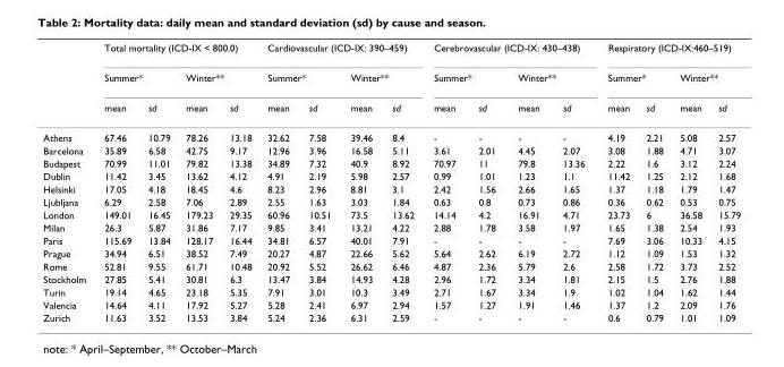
<table><thead><tr><td rowspan="3"></td><td colspan="4">Total mortality (ICD-IX &lt; 800.0)</td><td colspan="4">Cardiovascular (ICD-IX: 390–459)</td><td colspan="4">Cerebrovascular (ICD-IX: 430–438)</td><td colspan="4">Respiratory (ICD-IX:460–519)</td></tr><tr><td colspan="2">Summer*</td><td colspan="2">Winter**</td><td colspan="2">Summer*</td><td colspan="2">Winter**</td><td colspan="2">Summer*</td><td colspan="2">Winter**</td><td colspan="2">Summer*</td><td colspan="2">Winter**</td></tr><tr><td>mean</td><td>sd</td><td>mean</td><td>sd</td><td>mean</td><td>sd</td><td>mean</td><td>sd</td><td>mean</td><td>sd</td><td>mean</td><td>sd</td><td>mean</td><td>sd</td><td>mean</td><td>sd</td></tr></thead><tbody><tr><td>Athens</td><td>67.46</td><td>10.79</td><td>78.26</td><td>13.18</td><td>32.62</td><td>7.58</td><td>39.46</td><td>8.4</td><td>-</td><td>-</td><td>-</td><td>-</td><td>4.19</td><td>2.21</td><td>5.08</td><td>2.57</td></tr><tr><td>Barcelona</td><td>35.89</td><td>6.58</td><td>42.75</td><td>9.17</td><td>12.96</td><td>3.96</td><td>16.58</td><td>5.11</td><td>3.61</td><td>2.01</td><td>4.45</td><td>2.07</td><td>3.08</td><td>1.88</td><td>4.71</td><td>3.07</td></tr><tr><td>Budapest</td><td>70.99</td><td>11.01</td><td>79.82</td><td>13.38</td><td>34.89</td><td>7.32</td><td>40.9</td><td>8.92</td><td>70.97</td><td>11</td><td>79.8</td><td>13.36</td><td>2.22</td><td>1.6</td><td>3.12</td><td>2.24</td></tr><tr><td>Dublin</td><td>11.42</td><td>3.45</td><td>13.62</td><td>4.12</td><td>4.91</td><td>2.19</td><td>5.98</td><td>2.57</td><td>0.99</td><td>1.01</td><td>1.23</td><td>1.1</td><td>11.42</td><td>1.25</td><td>2.12</td><td>1.68</td></tr><tr><td>Helsinki</td><td>17.05</td><td>4.18</td><td>18.45</td><td>4.6</td><td>8.23</td><td>2.96</td><td>8.81</td><td>3.1</td><td>2.42</td><td>1.56</td><td>2.66</td><td>1.65</td><td>1.37</td><td>1.18</td><td>1.79</td><td>1.47</td></tr><tr><td>Ljubljana</td><td>6.29</td><td>2.58</td><td>7.06</td><td>2.89</td><td>2.55</td><td>1.63</td><td>3.03</td><td>1.84</td><td>0.63</td><td>0.8</td><td>0.73</td><td>0.86</td><td>0.36</td><td>0.62</td><td>0.53</td><td>0.75</td></tr><tr><td>London</td><td>149.01</td><td>16.45</td><td>179.23</td><td>29.35</td><td>60.96</td><td>10.51</td><td>73.5</td><td>13.62</td><td>14.14</td><td>4.2</td><td>16.91</td><td>4.71</td><td>23.73</td><td>6</td><td>36.58</td><td>15.79</td></tr><tr><td>Milan</td><td>26.3</td><td>5.87</td><td>31.86</td><td>7.17</td><td>9.85</td><td>3.41</td><td>13.21</td><td>4.22</td><td>2.88</td><td>1.78</td><td>3.58</td><td>1.97</td><td>1.65</td><td>1.38</td><td>2.54</td><td>1.93</td></tr><tr><td>Paris</td><td>115.69</td><td>13.84</td><td>128.17</td><td>16.44</td><td>34.81</td><td>6.57</td><td>40.01</td><td>7.91</td><td>-</td><td>-</td><td>-</td><td>-</td><td>7.69</td><td>3.06</td><td>10.33</td><td>4.15</td></tr><tr><td>Prague</td><td>34.94</td><td>6.51</td><td>38.52</td><td>7.49</td><td>20.27</td><td>4.87</td><td>22.66</td><td>5.62</td><td>5.64</td><td>2.62</td><td>6.19</td><td>2.72</td><td>1.12</td><td>1.09</td><td>1.53</td><td>1.32</td></tr><tr><td>Rome</td><td>52.81</td><td>9.55</td><td>61.71</td><td>10.48</td><td>20.92</td><td>5.52</td><td>26.62</td><td>6.46</td><td>4.87</td><td>2.36</td><td>5.79</td><td>2.6</td><td>2.58</td><td>1.72</td><td>3.73</td><td>2.52</td></tr><tr><td>Stockholm</td><td>27.85</td><td>5.41</td><td>30.81</td><td>6.3</td><td>13.47</td><td>3.84</td><td>14.93</td><td>4.28</td><td>2.96</td><td>1.72</td><td>3.34</td><td>1.81</td><td>2.15</td><td>1.5</td><td>2.76</td><td>1.88</td></tr><tr><td>Turin</td><td>19.14</td><td>4.65</td><td>23.18</td><td>5.35</td><td>7.91</td><td>3.01</td><td>10.3</td><td>3.49</td><td>2.71</td><td>1.67</td><td>3.34</td><td>1.9</td><td>1.02</td><td>1.04</td><td>1.62</td><td>1.44</td></tr><tr><td>Valencia</td><td>14.64</td><td>4.11</td><td>17.92</td><td>5.27</td><td>5.28</td><td>2.41</td><td>6.97</td><td>2.94</td><td>1.57</td><td>1.27</td><td>1.91</td><td>1.46</td><td>1.37</td><td>1.2</td><td>2.09</td><td>1.76</td></tr><tr><td>Zurich</td><td>11.63</td><td>3.52</td><td>13.53</td><td>3.84</td><td>5.24</td><td>2.36</td><td>6.31</td><td>2.59</td><td>-</td><td>-</td><td>-</td><td>-</td><td>0.6</td><td>0.79</td><td>1.01</td><td>1.09</td></tr></tbody></table>